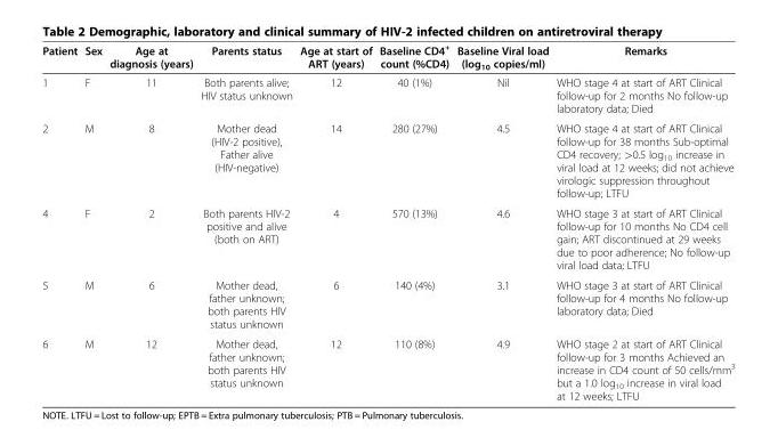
<table><thead><tr><td>Patient</td><td>Sex</td><td>Age at diagnosis (years)</td><td>Parents status</td><td>Age at start of ART (years)</td><td>Baseline CD4<sup>+</sup> count (%CD4)</td><td>Baseline Viral load (log<sub>10</sub> copies/ml)</td><td>Remarks</td></tr></thead><tbody><tr><td>1</td><td>F</td><td>11</td><td>Both parents alive; HIV status unknown</td><td>12</td><td>40 (1%)</td><td>Nil</td><td>WHO stage 4 at start of ART Clinical follow-up for 2 months No follow-up laboratory data; Died</td></tr><tr><td>2</td><td>M</td><td>8</td><td>Mother dead (HIV-2 positive), Father alive (HIV-negative)</td><td>14</td><td>280 (27%)</td><td>4.5</td><td>WHO stage 4 at start of ART Clinical follow-up for 38 months Sub-optimal CD4 recovery; &gt;0.5 log<sub>10</sub> increase in viral load at 12 weeks; did not achieve virologic suppression throughout follow-up; LTFU</td></tr><tr><td>4</td><td>F</td><td>2</td><td>Both parents HIV-2 positive and alive (both on ART)</td><td>4</td><td>570 (13%)</td><td>4.6</td><td>WHO stage 3 at start of ART Clinical follow-up for 10 months No CD4 cell gain; ART discontinued at 29 weeks due to poor adherence; No follow-up viral load data; LTFU</td></tr><tr><td>5</td><td>M</td><td>6</td><td>Mother dead, father unknown; both parents HIV status unknown</td><td>6</td><td>140 (4%)</td><td>3.1</td><td>WHO stage 3 at start of ART Clinical follow-up for 4 months No follow-up laboratory data; Died</td></tr><tr><td>6</td><td>M</td><td>12</td><td>Mother dead, father unknown; both parents HIV status unknown</td><td>12</td><td>110 (8%)</td><td>4.9</td><td>WHO stage 2 at start of ART Clinical follow-up for 3 months Achieved an increase in CD4 count of 50 cells/mm<sup>3</sup> but a 1.0 log<sub>10</sub> increase in viral load at 12 weeks; LTFU</td></tr></tbody></table>